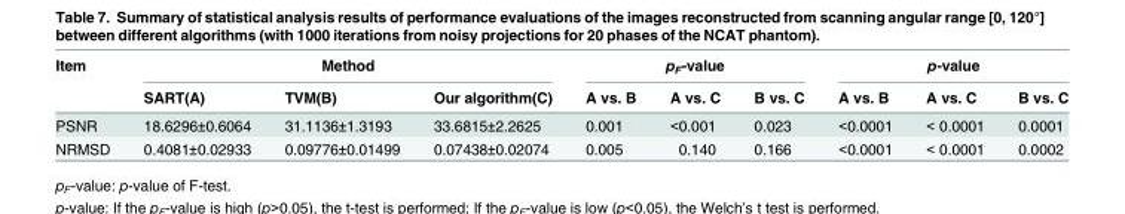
<table><thead><tr><td rowspan="2">Item</td><td colspan="3">Method</td><td colspan="3">p<sub>F</sub>-value</td><td colspan="3">p-value</td></tr><tr><td>SART(A)</td><td>TVM(B)</td><td>Our algorithm(C)</td><td>A vs. B</td><td>A vs. C</td><td>B vs. C</td><td>A vs. B</td><td>A vs. C</td><td>B vs. C</td></tr></thead><tbody><tr><td>PSNR</td><td>18.6296±0.6064</td><td>31.1136±1.3193</td><td>33.6815±2.2625</td><td>0.001</td><td>&lt;0.001</td><td>0.023</td><td>&lt;0.0001</td><td>&lt; 0.0001</td><td>0.0001</td></tr><tr><td>NRMSD</td><td>0.4081±0.02933</td><td>0.09776±0.01499</td><td>0.07438±0.02074</td><td>0.005</td><td>0.140</td><td>0.166</td><td>&lt;0.0001</td><td>&lt; 0.0001</td><td>0.0002</td></tr></tbody></table>